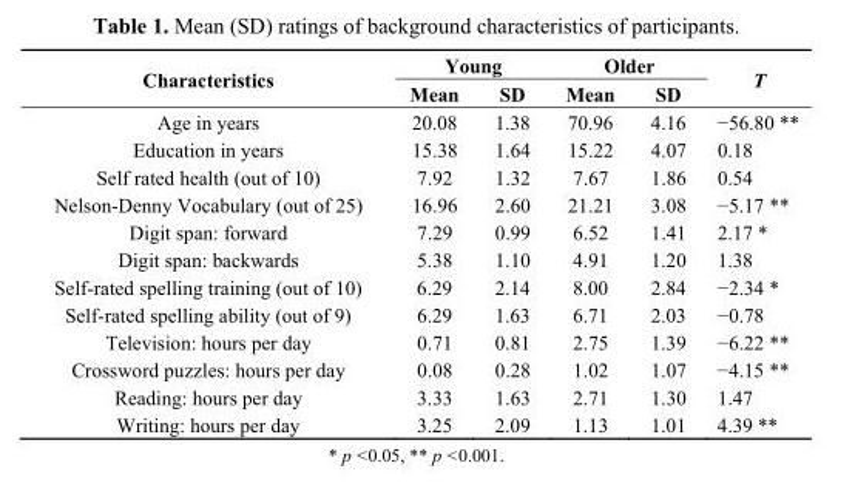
<table><thead><tr><td rowspan="2">Characteristics</td><td colspan="2">Young</td><td colspan="2">Older</td><td rowspan="2">T</td></tr><tr><td>Mean</td><td>SD</td><td>Mean</td><td>SD</td></tr></thead><tbody><tr><td>Age in years</td><td>20.08</td><td>1.38</td><td>70.96</td><td>4.16</td><td>−56.80 **</td></tr><tr><td>Education in years</td><td>15.38</td><td>1.64</td><td>15.22</td><td>4.07</td><td>0.18</td></tr><tr><td>Self rated health (out of 10)</td><td>7.92</td><td>1.32</td><td>7.67</td><td>1.86</td><td>0.54</td></tr><tr><td>Nelson-Denny Vocabulary (out of 25)</td><td>16.96</td><td>2.60</td><td>21.21</td><td>3.08</td><td>−5.17 **</td></tr><tr><td>Digit span: forward</td><td>7.29</td><td>0.99</td><td>6.52</td><td>1.41</td><td>2.17 *</td></tr><tr><td>Digit span: backwards</td><td>5.38</td><td>1.10</td><td>4.91</td><td>1.20</td><td>1.38</td></tr><tr><td>Self-rated spelling training (out of 10)</td><td>6.29</td><td>2.14</td><td>8.00</td><td>2.84</td><td>−2.34 *</td></tr><tr><td>Self-rated spelling ability (out of 9)</td><td>6.29</td><td>1.63</td><td>6.71</td><td>2.03</td><td>−0.78</td></tr><tr><td>Television: hours per day</td><td>0.71</td><td>0.81</td><td>2.75</td><td>1.39</td><td>−6.22 **</td></tr><tr><td>Crossword puzzles: hours per day</td><td>0.08</td><td>0.28</td><td>1.02</td><td>1.07</td><td>−4.15 **</td></tr><tr><td>Reading: hours per day</td><td>3.33</td><td>1.63</td><td>2.71</td><td>1.30</td><td>1.47</td></tr><tr><td>Writing: hours per day</td><td>3.25</td><td>2.09</td><td>1.13</td><td>1.01</td><td>4.39 **</td></tr></tbody></table>